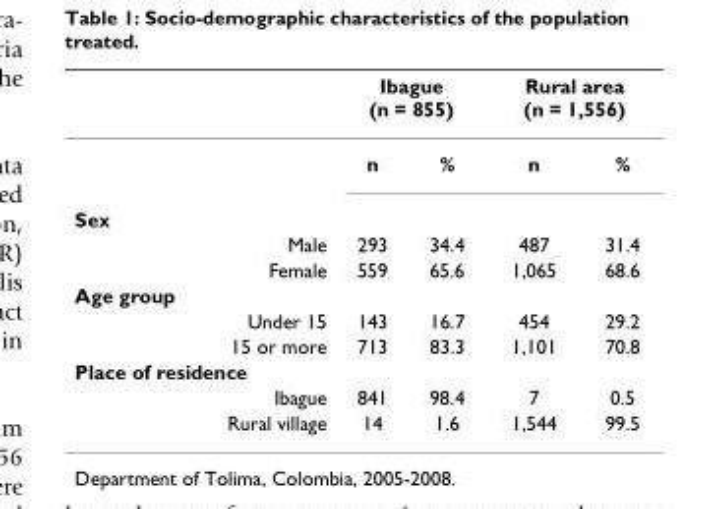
<table><thead><tr><td rowspan="2"></td><td colspan="2">Ibague (n = 855)</td><td colspan="2">Rural area (n = 1,556)</td></tr><tr><td>n</td><td>%</td><td>n</td><td>%</td></tr></thead><tbody><tr><td colspan="5">Sex</td></tr><tr><td>Male</td><td>293</td><td>34.4</td><td>487</td><td>31.4</td></tr><tr><td>Female</td><td>559</td><td>65.6</td><td>1,065</td><td>68.6</td></tr><tr><td colspan="5">Age group</td></tr><tr><td>Under 15</td><td>143</td><td>16.7</td><td>454</td><td>29.2</td></tr><tr><td>15 or more</td><td>713</td><td>83.3</td><td>1,101</td><td>70.8</td></tr><tr><td colspan="5">Place of residence</td></tr><tr><td>Ibague</td><td>841</td><td>98.4</td><td>7</td><td>0.5</td></tr><tr><td>Rural village</td><td>14</td><td>1.6</td><td>1,544</td><td>99.5</td></tr></tbody></table>